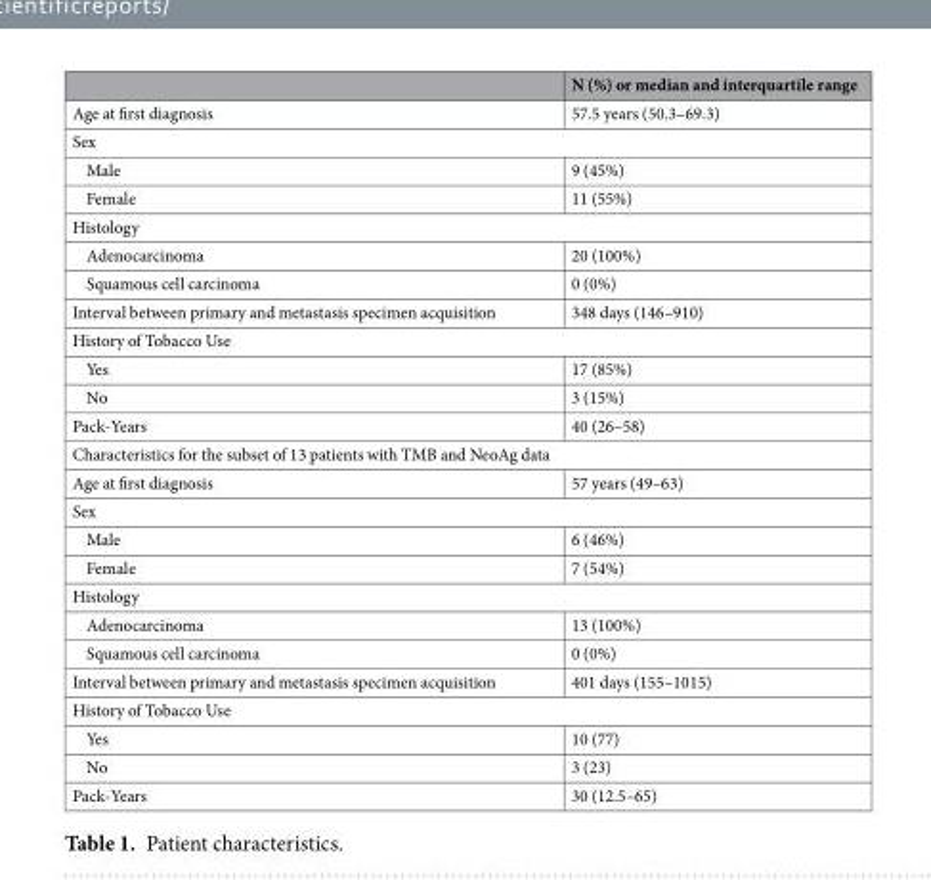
<table><thead><tr><td></td><td>N (%) or median and interquartile range</td></tr></thead><tbody><tr><td>Age at first diagnosis</td><td>57.5 years (50.3–69.3)</td></tr><tr><td colspan="2">Sex</td></tr><tr><td>Male</td><td>9 (45%)</td></tr><tr><td>Female</td><td>11 (55%)</td></tr><tr><td colspan="2">Histology</td></tr><tr><td>Adenocarcinoma</td><td>20 (100%)</td></tr><tr><td>Squamous cell carcinoma</td><td>0 (0%)</td></tr><tr><td>Interval between primary and metastasis specimen acquisition</td><td>348 days (146–910)</td></tr><tr><td colspan="2">History of Tobacco Use</td></tr><tr><td>Yes</td><td>17 (85%)</td></tr><tr><td>No</td><td>3 (15%)</td></tr><tr><td>Pack-Years</td><td>40 (26–58)</td></tr><tr><td colspan="2">Characteristics for the subset of 13 patients with TMB and NeoAg data</td></tr><tr><td>Age at first diagnosis</td><td>57 years (49–63)</td></tr><tr><td colspan="2">Sex</td></tr><tr><td>Male</td><td>6 (46%)</td></tr><tr><td>Female</td><td>7 (54%)</td></tr><tr><td colspan="2">Histology</td></tr><tr><td>Adenocarcinoma</td><td>13 (100%)</td></tr><tr><td>Squamous cell carcinoma</td><td>0 (0%)</td></tr><tr><td>Interval between primary and metastasis specimen acquisition</td><td>401 days (155–1015)</td></tr><tr><td colspan="2">History of Tobacco Use</td></tr><tr><td>Yes</td><td>10 (77)</td></tr><tr><td>No</td><td>3 (23)</td></tr><tr><td>Pack-Years</td><td>30 (12.5–65)</td></tr></tbody></table>